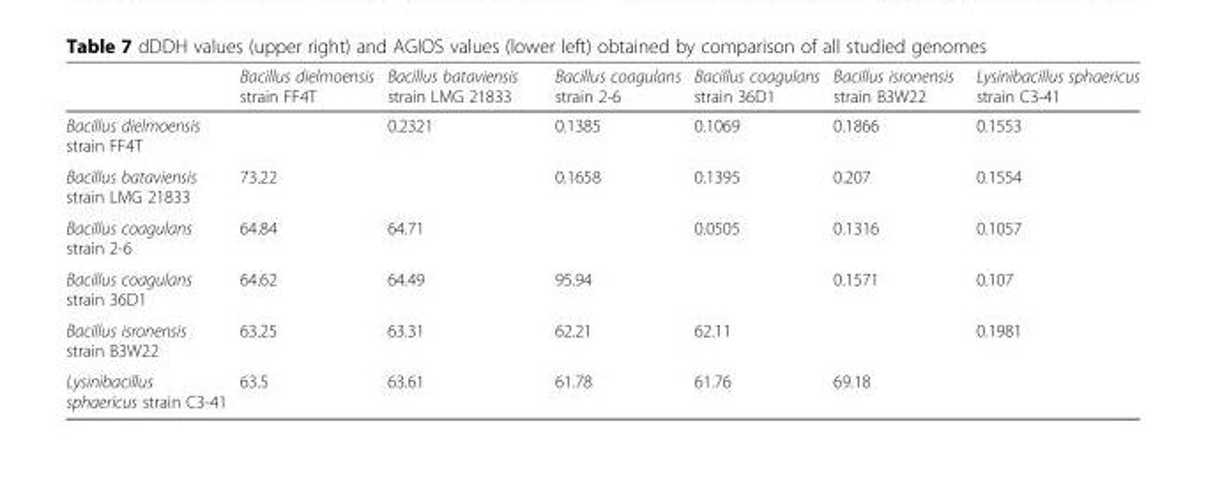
<table><thead><tr><td></td><td>Bacillus dielmoensis strain FF4T</td><td>Bacillus bataviensis strain LMG 21833</td><td>Bacillus coagulans strain 2-6</td><td>Bacillus coagulans strain 36D1</td><td>Bacillus isronensis strain B3W22</td><td>Lysinibacillus sphaericus strain C3-41</td></tr></thead><tbody><tr><td>Bacillus dielmoensis strain FF4T</td><td></td><td>0.2321</td><td>0.1385</td><td>0.1069</td><td>0.1866</td><td>0.1553</td></tr><tr><td>Bacillus bataviensis strain LMG 21833</td><td>73.22</td><td></td><td>0.1658</td><td>0.1395</td><td>0.207</td><td>0.1554</td></tr><tr><td>Bacillus coagulans strain 2-6</td><td>64.84</td><td>64.71</td><td></td><td>0.0505</td><td>0.1316</td><td>0.1057</td></tr><tr><td>Bacillus coagulans strain 36D1</td><td>64.62</td><td>64.49</td><td>95.94</td><td></td><td>0.1571</td><td>0.107</td></tr><tr><td>Bacillus isronensis strain B3W22</td><td>63.25</td><td>63.31</td><td>62.21</td><td>62.11</td><td></td><td>0.1981</td></tr><tr><td>Lysinibacillus sphaericus strain C3-41</td><td>63.5</td><td>63.61</td><td>61.78</td><td>61.76</td><td>69.18</td><td></td></tr></tbody></table>